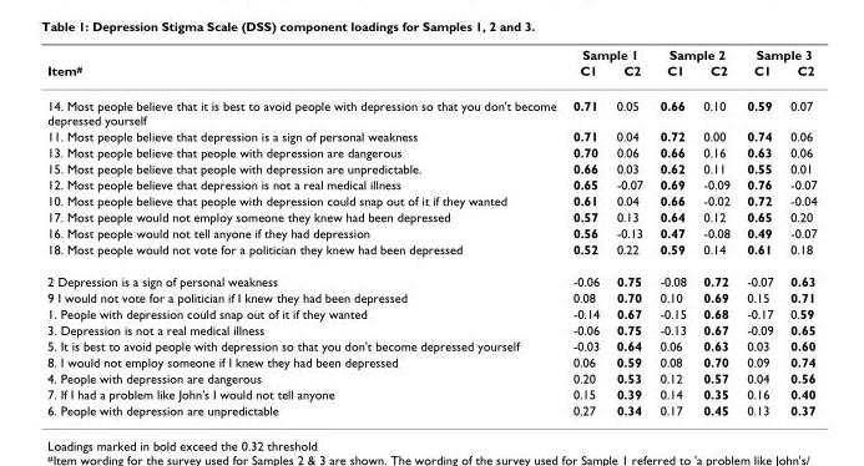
<table><thead><tr><td rowspan="2">Item<sup>#</sup></td><td colspan="2">Sample 1</td><td colspan="2">Sample 2</td><td colspan="2">Sample 3</td></tr><tr><td>C1</td><td>C2</td><td>C1</td><td>C2</td><td>C1</td><td>C2</td></tr></thead><tbody><tr><td>14. Most people believe that it is best to avoid people with depression so that you don&#x27;t become depressed yourself</td><td>0.71</td><td>0.05</td><td>0.66</td><td>0.10</td><td>0.59</td><td>0.07</td></tr><tr><td>11. Most people believe that depression is a sign of personal weakness</td><td>0.71</td><td>0.04</td><td>0.72</td><td>0.00</td><td>0.74</td><td>0.06</td></tr><tr><td>13. Most people believe that people with depression are dangerous</td><td>0.70</td><td>0.06</td><td>0.66</td><td>0.16</td><td>0.63</td><td>0.06</td></tr><tr><td>15. Most people believe that people with depression are unpredictable.</td><td>0.66</td><td>0.03</td><td>0.62</td><td>0.11</td><td>0.55</td><td>0.01</td></tr><tr><td>12. Most people believe that depression is not a real medical illness</td><td>0.65</td><td>-0.07</td><td>0.69</td><td>-0.09</td><td>0.76</td><td>-0.07</td></tr><tr><td>10. Most people believe that people with depression could snap out of it if they wanted</td><td>0.61</td><td>0.04</td><td>0.66</td><td>-0.02</td><td>0.72</td><td>-0.04</td></tr><tr><td>17. Most people would not employ someone they knew had been depressed</td><td>0.57</td><td>0.13</td><td>0.64</td><td>0.12</td><td>0.65</td><td>0.20</td></tr><tr><td>16. Most people would not tell anyone if they had depression</td><td>0.56</td><td>-0.13</td><td>0.47</td><td>-0.08</td><td>0.49</td><td>-0.07</td></tr><tr><td>18. Most people would not vote for a politician they knew had been depressed</td><td>0.52</td><td>0.22</td><td>0.59</td><td>0.14</td><td>0.61</td><td>0.18</td></tr><tr><td>2 Depression is a sign of personal weakness</td><td>-0.06</td><td>0.75</td><td>-0.08</td><td>0.72</td><td>-0.07</td><td>0.63</td></tr><tr><td>9 I would not vote for a politician if I knew they had been depressed</td><td>0.08</td><td>0.70</td><td>0.10</td><td>0.69</td><td>0.15</td><td>0.71</td></tr><tr><td>1. People with depression could snap out of it if they wanted</td><td>-0.14</td><td>0.67</td><td>-0.15</td><td>0.68</td><td>-0.17</td><td>0.59</td></tr><tr><td>3. Depression is not a real medical illness</td><td>-0.06</td><td>0.75</td><td>-0.13</td><td>0.67</td><td>-0.09</td><td>0.65</td></tr><tr><td>5. It is best to avoid people with depression so that you don&#x27;t become depressed yourself</td><td>-0.03</td><td>0.64</td><td>0.06</td><td>0.63</td><td>0.03</td><td>0.60</td></tr><tr><td>8. I would not employ someone if I knew they had been depressed</td><td>0.06</td><td>0.59</td><td>0.08</td><td>0.70</td><td>0.09</td><td>0.74</td></tr><tr><td>4. People with depression are dangerous</td><td>0.20</td><td>0.53</td><td>0.12</td><td>0.57</td><td>0.04</td><td>0.56</td></tr><tr><td>7. If I had a problem like John&#x27;s I would not tell anyone</td><td>0.15</td><td>0.39</td><td>0.14</td><td>0.35</td><td>0.16</td><td>0.40</td></tr><tr><td>6. People with depression are unpredictable</td><td>0.27</td><td>0.34</td><td>0.17</td><td>0.45</td><td>0.13</td><td>0.37</td></tr></tbody></table>